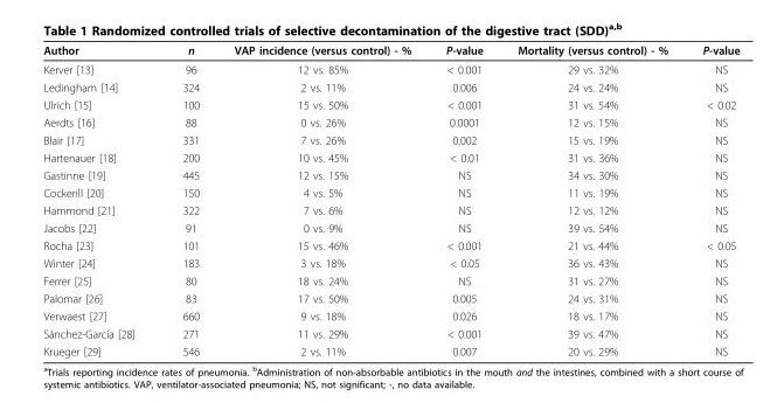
<table><thead><tr><td>Author</td><td>n</td><td>VAP incidence (versus control) - %</td><td>P-value</td><td>Mortality (versus control) - %</td><td>P-value</td></tr></thead><tbody><tr><td>Kerver [13]</td><td>96</td><td>12 vs. 85%</td><td>&lt; 0.001</td><td>29 vs. 32%</td><td>NS</td></tr><tr><td>Ledingham [14]</td><td>324</td><td>2 vs. 11%</td><td>0.006</td><td>24 vs. 24%</td><td>NS</td></tr><tr><td>Ulrich [15]</td><td>100</td><td>15 vs. 50%</td><td>&lt; 0.001</td><td>31 vs. 54%</td><td>&lt; 0.02</td></tr><tr><td>Aerdts [16]</td><td>88</td><td>0 vs. 26%</td><td>0.0001</td><td>12 vs. 15%</td><td>NS</td></tr><tr><td>Blair [17]</td><td>331</td><td>7 vs. 26%</td><td>0.002</td><td>15 vs. 19%</td><td>NS</td></tr><tr><td>Hartenauer [18]</td><td>200</td><td>10 vs. 45%</td><td>&lt; 0.01</td><td>31 vs. 36%</td><td>NS</td></tr><tr><td>Gastinne [19]</td><td>445</td><td>12 vs. 15%</td><td>NS</td><td>34 vs. 30%</td><td>NS</td></tr><tr><td>Cockerill [20]</td><td>150</td><td>4 vs. 5%</td><td>NS</td><td>11 vs. 19%</td><td>NS</td></tr><tr><td>Hammond [21]</td><td>322</td><td>7 vs. 6%</td><td>NS</td><td>12 vs. 12%</td><td>NS</td></tr><tr><td>Jacobs [22]</td><td>91</td><td>0 vs. 9%</td><td>NS</td><td>39 vs. 54%</td><td>NS</td></tr><tr><td>Rocha [23]</td><td>101</td><td>15 vs. 46%</td><td>&lt; 0.001</td><td>21 vs. 44%</td><td>&lt; 0.05</td></tr><tr><td>Winter [24]</td><td>183</td><td>3 vs. 18%</td><td>&lt; 0.05</td><td>36 vs. 43%</td><td>NS</td></tr><tr><td>Ferrer [25]</td><td>80</td><td>18 vs. 24%</td><td>NS</td><td>31 vs. 27%</td><td>NS</td></tr><tr><td>Palomar [26]</td><td>83</td><td>17 vs. 50%</td><td>0.005</td><td>24 vs. 31%</td><td>NS</td></tr><tr><td>Verwaest [27]</td><td>660</td><td>9 vs. 18%</td><td>0.026</td><td>18 vs. 17%</td><td>NS</td></tr><tr><td>Sánchez-García [28]</td><td>271</td><td>11 vs. 29%</td><td>&lt; 0.001</td><td>39 vs. 47%</td><td>NS</td></tr><tr><td>Krueger [29]</td><td>546</td><td>2 vs. 11%</td><td>0.007</td><td>20 vs. 29%</td><td>NS</td></tr></tbody></table>